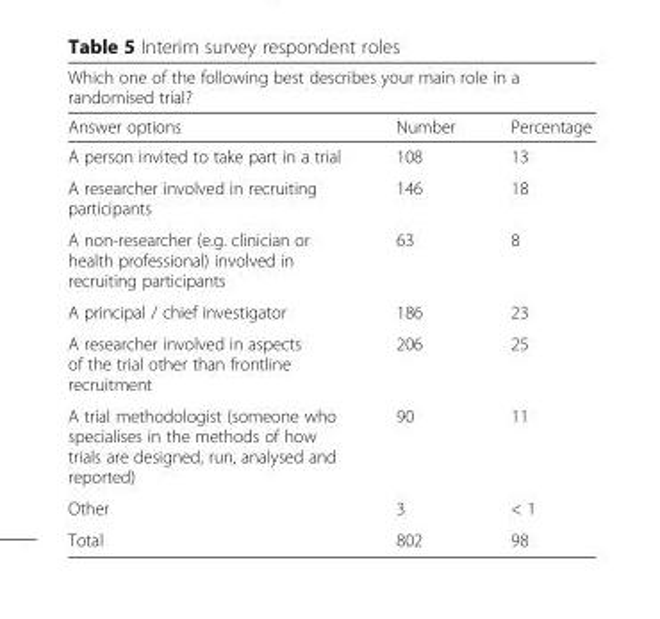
<table><thead><tr><td colspan="3">Which one of the following best describes your main role in a randomised trial?</td></tr><tr><td>Answer options</td><td>Number</td><td>Percentage</td></tr></thead><tbody><tr><td>A person invited to take part in a trial</td><td>108</td><td>13</td></tr><tr><td>A researcher involved in recruiting participants</td><td>146</td><td>18</td></tr><tr><td>A non-researcher (e.g. clinician or health professional) involved in recruiting participants</td><td>63</td><td>8</td></tr><tr><td>A principal / chief investigator</td><td>186</td><td>23</td></tr><tr><td>A researcher involved in aspects of the trial other than frontline recruitment</td><td>206</td><td>25</td></tr><tr><td>A trial methodologist (someone who specialises in the methods of how trials are designed, run, analysed and reported)</td><td>90</td><td>11</td></tr><tr><td>Other</td><td>3</td><td>&lt; 1</td></tr><tr><td>Total</td><td>802</td><td>98</td></tr></tbody></table>